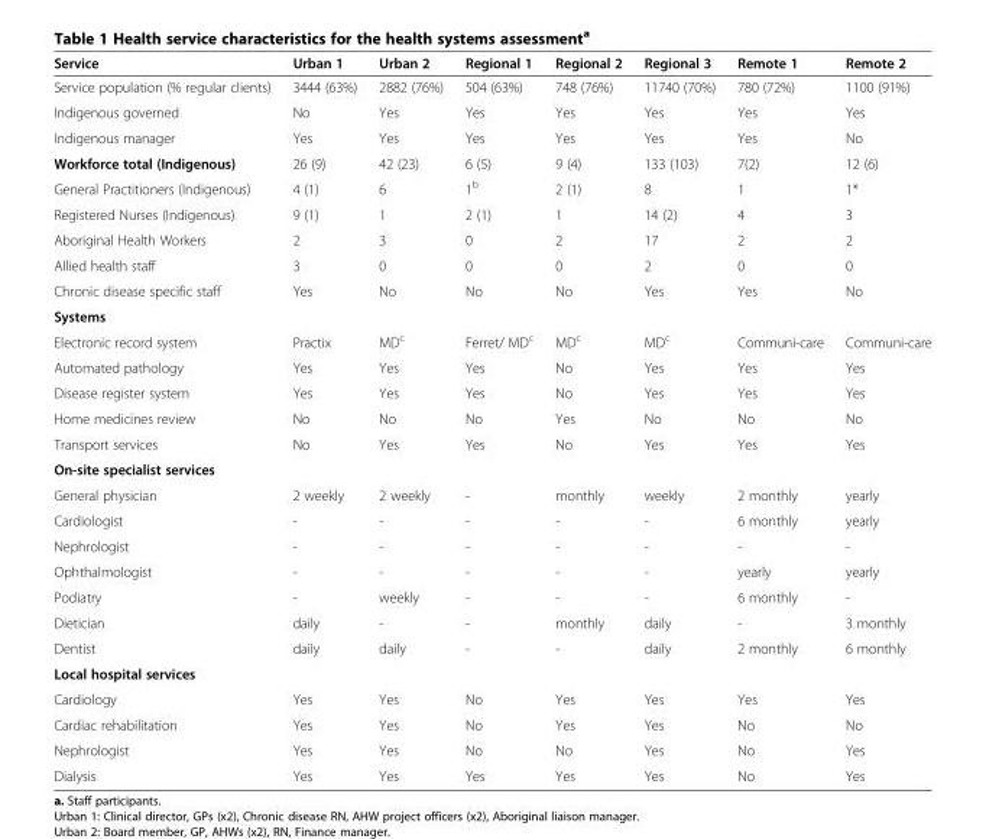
<table><thead><tr><td>Service</td><td>Urban 1</td><td>Urban 2</td><td>Regional 1</td><td>Regional 2</td><td>Regional 3</td><td>Remote 1</td><td>Remote 2</td></tr></thead><tbody><tr><td>Service population (% regular clients)</td><td>3444 (63%)</td><td>2882 (76%)</td><td>504 (63%)</td><td>748 (76%)</td><td>11740 (70%)</td><td>780 (72%)</td><td>1100 (91%)</td></tr><tr><td>Indigenous governed</td><td>No</td><td>Yes</td><td>Yes</td><td>Yes</td><td>Yes</td><td>Yes</td><td>Yes</td></tr><tr><td>Indigenous manager</td><td>Yes</td><td>Yes</td><td>Yes</td><td>Yes</td><td>Yes</td><td>Yes</td><td>No</td></tr><tr><td>Workforce total (Indigenous)</td><td>26 (9)</td><td>42 (23)</td><td>6 (5)</td><td>9 (4)</td><td>133 (103)</td><td>7(2)</td><td>12 (6)</td></tr><tr><td>General Practitioners (Indigenous)</td><td>4 (1)</td><td>6</td><td>1<sup>b</sup></td><td>2 (1)</td><td>8</td><td>1</td><td>1*</td></tr><tr><td>Registered Nurses (Indigenous)</td><td>9 (1)</td><td>1</td><td>2 (1)</td><td>1</td><td>14 (2)</td><td>4</td><td>3</td></tr><tr><td>Aboriginal Health Workers</td><td>2</td><td>3</td><td>0</td><td>2</td><td>17</td><td>2</td><td>2</td></tr><tr><td>Allied health staff</td><td>3</td><td>0</td><td>0</td><td>0</td><td>2</td><td>0</td><td>0</td></tr><tr><td>Chronic disease specific staff</td><td>Yes</td><td>No</td><td>No</td><td>No</td><td>Yes</td><td>Yes</td><td>No</td></tr><tr><td colspan="8">Systems</td></tr><tr><td>Electronic record system</td><td>Practix</td><td>MD<sup>c</sup></td><td>Ferret/ MD<sup>c</sup></td><td>MD<sup>c</sup></td><td>MD<sup>c</sup></td><td>Communi-care</td><td>Communi-care</td></tr><tr><td>Automated pathology</td><td>Yes</td><td>Yes</td><td>Yes</td><td>No</td><td>Yes</td><td>Yes</td><td>Yes</td></tr><tr><td>Disease register system</td><td>Yes</td><td>Yes</td><td>Yes</td><td>No</td><td>Yes</td><td>Yes</td><td>Yes</td></tr><tr><td>Home medicines review</td><td>No</td><td>No</td><td>No</td><td>Yes</td><td>No</td><td>No</td><td>No</td></tr><tr><td>Transport services</td><td>No</td><td>Yes</td><td>Yes</td><td>No</td><td>Yes</td><td>Yes</td><td>Yes</td></tr><tr><td colspan="8">On-site specialist services</td></tr><tr><td>General physician</td><td>2 weekly</td><td>2 weekly</td><td>-</td><td>monthly</td><td>weekly</td><td>2 monthly</td><td>yearly</td></tr><tr><td>Cardiologist</td><td>-</td><td>-</td><td>-</td><td>-</td><td>-</td><td>6 monthly</td><td>yearly</td></tr><tr><td>Nephrologist</td><td>-</td><td>-</td><td>-</td><td>-</td><td>-</td><td>-</td><td>-</td></tr><tr><td>Ophthalmologist</td><td>-</td><td>-</td><td>-</td><td>-</td><td>-</td><td>yearly</td><td>yearly</td></tr><tr><td>Podiatry</td><td>-</td><td>weekly</td><td>-</td><td>-</td><td>-</td><td>6 monthly</td><td>-</td></tr><tr><td>Dietician</td><td>daily</td><td>-</td><td>-</td><td>monthly</td><td>daily</td><td>-</td><td>3 monthly</td></tr><tr><td>Dentist</td><td>daily</td><td>daily</td><td>-</td><td>-</td><td>daily</td><td>2 monthly</td><td>6 monthly</td></tr><tr><td colspan="8">Local hospital services</td></tr><tr><td>Cardiology</td><td>Yes</td><td>Yes</td><td>No</td><td>Yes</td><td>Yes</td><td>Yes</td><td>Yes</td></tr><tr><td>Cardiac rehabilitation</td><td>Yes</td><td>Yes</td><td>No</td><td>Yes</td><td>Yes</td><td>No</td><td>No</td></tr><tr><td>Nephrologist</td><td>Yes</td><td>Yes</td><td>No</td><td>No</td><td>Yes</td><td>No</td><td>Yes</td></tr><tr><td>Dialysis</td><td>Yes</td><td>Yes</td><td>Yes</td><td>Yes</td><td>Yes</td><td>No</td><td>Yes</td></tr></tbody></table>